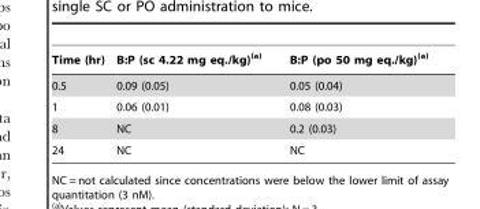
<table><thead><tr><td>Time (hr)</td><td>B:P (sc 4.22 mg eq./kg)(a)</td><td>B:P (po 50 mg eq./kg)(a)</td></tr></thead><tbody><tr><td>0.5</td><td>0.09 (0.05)</td><td>0.05 (0.04)</td></tr><tr><td>1</td><td>0.06 (0.01)</td><td>0.08 (0.03)</td></tr><tr><td>8</td><td>NC</td><td>0.2 (0.03)</td></tr><tr><td>24</td><td>NC</td><td>NC</td></tr></tbody></table>